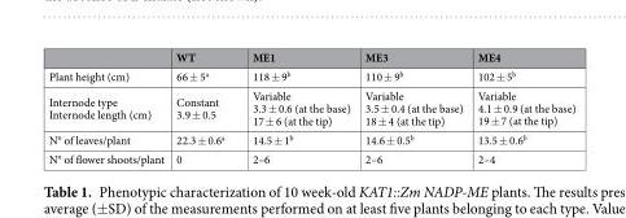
<table><thead><tr><td></td><td>WT</td><td>ME1</td><td>ME3</td><td>ME4</td></tr></thead><tbody><tr><td>Plant height (cm)</td><td>66 ± 5<sup>a</sup></td><td>118 ± 9<sup>b</sup></td><td>110 ± 9<sup>b</sup></td><td>102 ± 5<sup>b</sup></td></tr><tr><td>Internode type Internode length (cm)</td><td>Constant 3.9 ± 0.5</td><td>Variable 3.3 ± 0.6 (at the base) 17 ± 6 (at the tip)</td><td>Variable 3.5 ± 0.4 (at the base) 18 ± 4 (at the tip)</td><td>Variable 4.1 ± 0.9 (at the base) 19 ± 7 (at the tip)</td></tr><tr><td>N° of leaves/plant</td><td>22.3 ± 0.6<sup>a</sup></td><td>14.5 ± 1<sup>b</sup></td><td>14.6 ± 0.5<sup>b</sup></td><td>13.5 ± 0.6<sup>b</sup></td></tr><tr><td>N° of flower shoots/plant</td><td>0</td><td>2–6</td><td>2–6</td><td>2–4</td></tr></tbody></table>